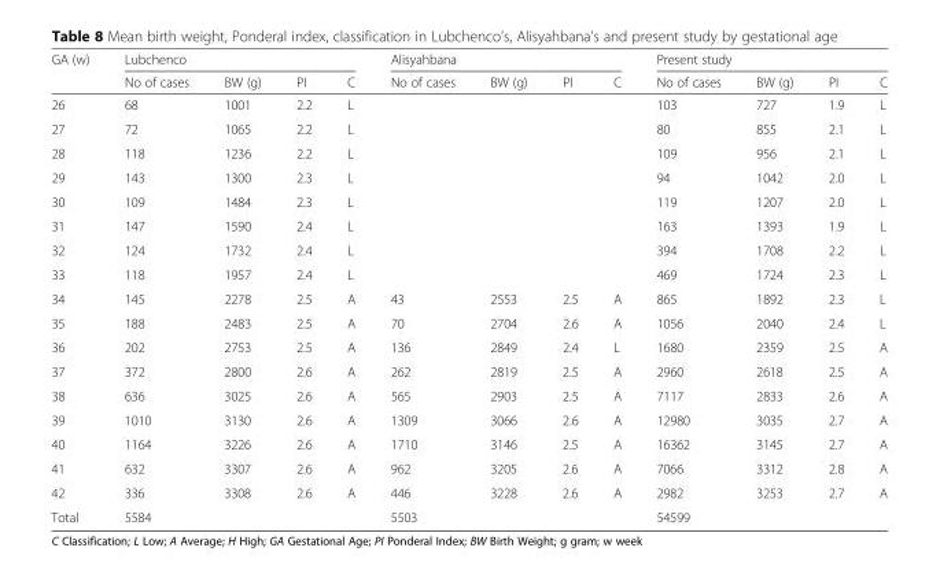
<table><thead><tr><td rowspan="2">GA (w)</td><td colspan="4">Lubchenco</td><td colspan="4">Alisyahbana</td><td colspan="4">Present study</td></tr><tr><td>No of cases</td><td>BW (g)</td><td>PI</td><td>C</td><td>No of cases</td><td>BW (g)</td><td>PI</td><td>C</td><td>No of cases</td><td>BW (g)</td><td>PI</td><td>C</td></tr></thead><tbody><tr><td>26</td><td>68</td><td>1001</td><td>2.2</td><td>L</td><td></td><td></td><td></td><td></td><td>103</td><td>727</td><td>1.9</td><td>L</td></tr><tr><td>27</td><td>72</td><td>1065</td><td>2.2</td><td>L</td><td></td><td></td><td></td><td></td><td>80</td><td>855</td><td>2.1</td><td>L</td></tr><tr><td>28</td><td>118</td><td>1236</td><td>2.2</td><td>L</td><td></td><td></td><td></td><td></td><td>109</td><td>956</td><td>2.1</td><td>L</td></tr><tr><td>29</td><td>143</td><td>1300</td><td>2.3</td><td>L</td><td></td><td></td><td></td><td></td><td>94</td><td>1042</td><td>2.0</td><td>L</td></tr><tr><td>30</td><td>109</td><td>1484</td><td>2.3</td><td>L</td><td></td><td></td><td></td><td></td><td>119</td><td>1207</td><td>2.0</td><td>L</td></tr><tr><td>31</td><td>147</td><td>1590</td><td>2.4</td><td>L</td><td></td><td></td><td></td><td></td><td>163</td><td>1393</td><td>1.9</td><td>L</td></tr><tr><td>32</td><td>124</td><td>1732</td><td>2.4</td><td>L</td><td></td><td></td><td></td><td></td><td>394</td><td>1708</td><td>2.2</td><td>L</td></tr><tr><td>33</td><td>118</td><td>1957</td><td>2.4</td><td>L</td><td></td><td></td><td></td><td></td><td>469</td><td>1724</td><td>2.3</td><td>L</td></tr><tr><td>34</td><td>145</td><td>2278</td><td>2.5</td><td>A</td><td>43</td><td>2553</td><td>2.5</td><td>A</td><td>865</td><td>1892</td><td>2.3</td><td>L</td></tr><tr><td>35</td><td>188</td><td>2483</td><td>2.5</td><td>A</td><td>70</td><td>2704</td><td>2.6</td><td>A</td><td>1056</td><td>2040</td><td>2.4</td><td>L</td></tr><tr><td>36</td><td>202</td><td>2753</td><td>2.5</td><td>A</td><td>136</td><td>2849</td><td>2.4</td><td>L</td><td>1680</td><td>2359</td><td>2.5</td><td>A</td></tr><tr><td>37</td><td>372</td><td>2800</td><td>2.6</td><td>A</td><td>262</td><td>2819</td><td>2.5</td><td>A</td><td>2960</td><td>2618</td><td>2.5</td><td>A</td></tr><tr><td>38</td><td>636</td><td>3025</td><td>2.6</td><td>A</td><td>565</td><td>2903</td><td>2.5</td><td>A</td><td>7117</td><td>2833</td><td>2.6</td><td>A</td></tr><tr><td>39</td><td>1010</td><td>3130</td><td>2.6</td><td>A</td><td>1309</td><td>3066</td><td>2.6</td><td>A</td><td>12980</td><td>3035</td><td>2.7</td><td>A</td></tr><tr><td>40</td><td>1164</td><td>3226</td><td>2.6</td><td>A</td><td>1710</td><td>3146</td><td>2.5</td><td>A</td><td>16362</td><td>3145</td><td>2.7</td><td>A</td></tr><tr><td>41</td><td>632</td><td>3307</td><td>2.6</td><td>A</td><td>962</td><td>3205</td><td>2.6</td><td>A</td><td>7066</td><td>3312</td><td>2.8</td><td>A</td></tr><tr><td>42</td><td>336</td><td>3308</td><td>2.6</td><td>A</td><td>446</td><td>3228</td><td>2.6</td><td>A</td><td>2982</td><td>3253</td><td>2.7</td><td>A</td></tr><tr><td>Total</td><td>5584</td><td></td><td></td><td></td><td>5503</td><td></td><td></td><td></td><td>54599</td><td></td><td></td><td></td></tr></tbody></table>